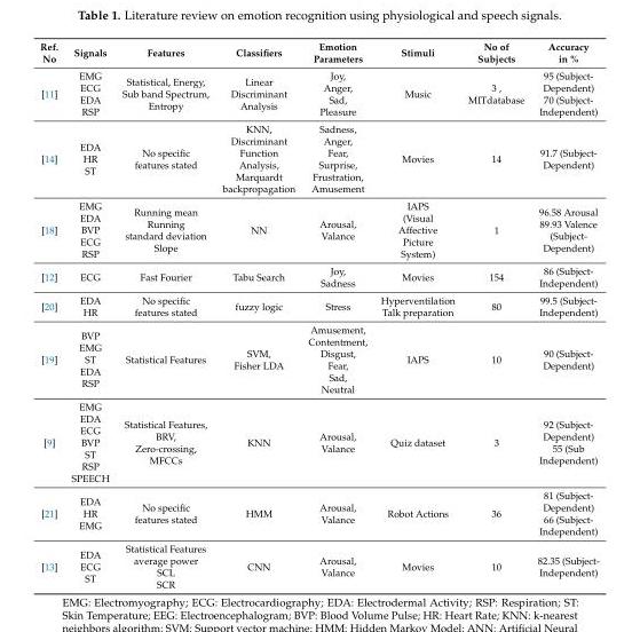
<table><thead><tr><td>Ref. No</td><td>Signals</td><td>Features</td><td>Classifiers</td><td>Emotion Parameters</td><td>Stimuli</td><td>No of Subjects</td><td>Accuracy in %</td></tr></thead><tbody><tr><td>[11]</td><td>EMG ECG EDA RSP</td><td>Statistical, Energy, Sub band Spectrum, Entropy</td><td>Linear Discriminant Analysis</td><td>Joy, Anger, Sad, Pleasure</td><td>Music</td><td>3 , MITdatabase</td><td>95 (Subject- Dependent) 70 (Subject- Independent)</td></tr><tr><td>[14]</td><td>EDA HR ST</td><td>No specific features stated</td><td>KNN, Discriminant Function Analysis, Marquardt backpropagation</td><td>Sadness, Anger, Fear, Surprise, Frustration, Amusement</td><td>Movies</td><td>14</td><td>91.7 (Subject- Dependent)</td></tr><tr><td>[18]</td><td>EMG EDA BVP ECG RSP</td><td>Running mean Running standard deviation Slope</td><td>NN</td><td>Arousal, Valance</td><td>IAPS (Visual Affective Picture System)</td><td>1</td><td>96.58 Arousal 89.93 Valence (Subject- Dependent)</td></tr><tr><td>[12]</td><td>ECG</td><td>Fast Fourier</td><td>Tabu Search</td><td>Joy, Sadness</td><td>Movies</td><td>154</td><td>86 (Subject- Independent)</td></tr><tr><td>[20]</td><td>EDA HR</td><td>No specific features stated</td><td>fuzzy logic</td><td>Stress</td><td>Hyperventilation Talk preparation</td><td>80</td><td>99.5 (Subject- Independent)</td></tr><tr><td>[19]</td><td>BVP EMG ST EDA RSP</td><td>Statistical Features</td><td>SVM, Fisher LDA</td><td>Amusement, Contentment, Disgust, Fear, Sad, Neutral</td><td>IAPS</td><td>10</td><td>90 (Subject- Dependent)</td></tr><tr><td>[9]</td><td>EMG EDA ECG BVP ST RSP SPEECH</td><td>Statistical Features, BRV, Zero-crossing, MFCCs</td><td>KNN</td><td>Arousal, Valance</td><td>Quiz dataset</td><td>3</td><td>92 (Subject- Dependent) 55 (Sub Independent)</td></tr><tr><td>[21]</td><td>EDA HR EMG</td><td>No specific features stated</td><td>HMM</td><td>Arousal, Valance</td><td>Robot Actions</td><td>36</td><td>81 (Subject- Dependent) 66 (Subject- Independent)</td></tr><tr><td>[13]</td><td>EDA ECG ST</td><td>Statistical Features average power SCL SCR</td><td>CNN</td><td>Arousal, Valance</td><td>Movies</td><td>10</td><td>82.35 (Subject- Independent)</td></tr></tbody></table>